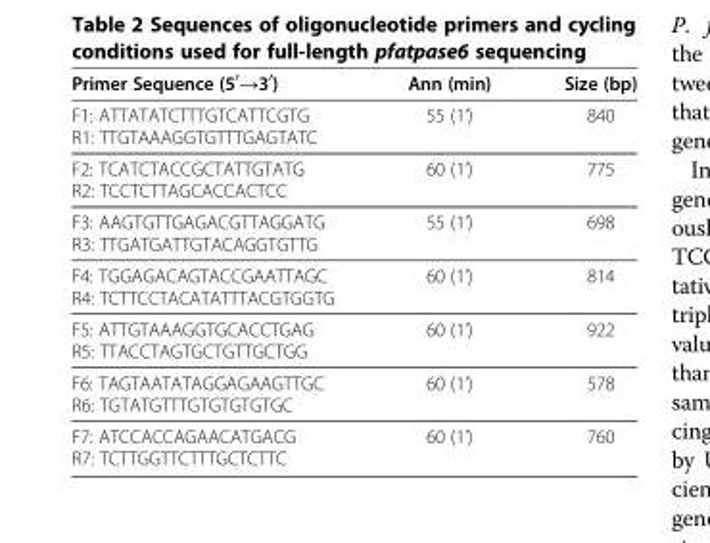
<table><thead><tr><td>Primer Sequence (5′→3′)</td><td>Ann (min)</td><td>Size (bp)</td></tr></thead><tbody><tr><td>F1: ATTATATCTTTGTCATTCGTG</td><td rowspan="2">55 (1’)</td><td rowspan="2">840</td></tr><tr><td>R1: TTGTAAAGGTGTTTGAGTATC</td></tr><tr><td>F2: TCATCTACCGCTATTGTATG</td><td rowspan="2">60 (1’)</td><td rowspan="2">775</td></tr><tr><td>R2: TCCTCTTAGCACCACTCC</td></tr><tr><td>F3: AAGTGTTGAGACGTTAGGATG</td><td rowspan="2">55 (1’)</td><td rowspan="2">698</td></tr><tr><td>R3: TTGATGATTGTACAGGTGTTG</td></tr><tr><td>F4: TGGAGACAGTACCGAATTAGC</td><td rowspan="2">60 (1’)</td><td rowspan="2">814</td></tr><tr><td>R4: TCTTCCTACATATTTACGTGGTG</td></tr><tr><td>F5: ATTGTAAAGGTGCACCTGAG</td><td rowspan="2">60 (1’)</td><td rowspan="2">922</td></tr><tr><td>R5: TTACCTAGTGCTGTTGCTGG</td></tr><tr><td>F6: TAGTAATATAGGAGAAGTTGC</td><td rowspan="2">60 (1’)</td><td rowspan="2">578</td></tr><tr><td>R6: TGTATGTTTGTGTGTGTGC</td></tr><tr><td>F7: ATCCACCAGAACATGACG</td><td rowspan="2">60 (1’)</td><td rowspan="2">760</td></tr><tr><td>R7: TCTTGGTTCTTTGCTCTTC</td></tr></tbody></table>